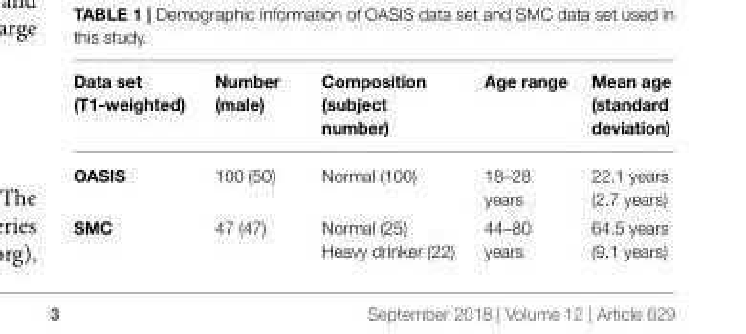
<table><thead><tr><td>Data set (T1-weighted)</td><td>Number (male)</td><td>Composition (subject number)</td><td>Age range</td><td>Mean age (standard deviation)</td></tr></thead><tbody><tr><td>OASIS</td><td>100 (50)</td><td>Normal (100)</td><td>18–28 years</td><td>22.1 years (2.7 years)</td></tr><tr><td>SMC</td><td>47 (47)</td><td>Normal (25) Heavy drinker (22)</td><td>44–80 years</td><td>64.5 years (9.1 years)</td></tr></tbody></table>